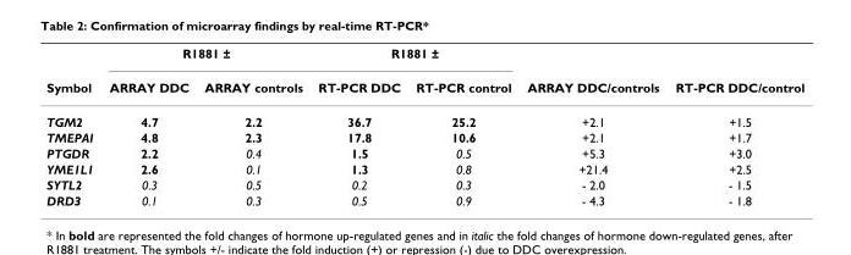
<table><thead><tr><td rowspan="2">Symbol</td><td colspan="2">R1881 ±</td><td colspan="2">R1881 ±</td><td rowspan="2">ARRAY DDC/controls</td><td rowspan="2">RT-PCR DDC/control</td></tr><tr><td>ARRAY DDC</td><td>ARRAY controls</td><td>RT-PCR DDC</td><td>RT-PCR control</td></tr></thead><tbody><tr><td>TGM2</td><td>4.7</td><td>2.2</td><td>36.7</td><td>25.2</td><td>+2.1</td><td>+1.5</td></tr><tr><td>TMEPAI</td><td>4.8</td><td>2.3</td><td>17.8</td><td>10.6</td><td>+2.1</td><td>+1.7</td></tr><tr><td>PTGDR</td><td>2.2</td><td>0.4</td><td>1.5</td><td>0.5</td><td>+5.3</td><td>+3.0</td></tr><tr><td>YME1L1</td><td>2.6</td><td>0.1</td><td>1.3</td><td>0.8</td><td>+21.4</td><td>+2.5</td></tr><tr><td>SYTL2</td><td>0.3</td><td>0.5</td><td>0.2</td><td>0.3</td><td>- 2.0</td><td>- 1.5</td></tr><tr><td>DRD3</td><td>0.1</td><td>0.3</td><td>0.5</td><td>0.9</td><td>- 4.3</td><td>- 1.8</td></tr></tbody></table>